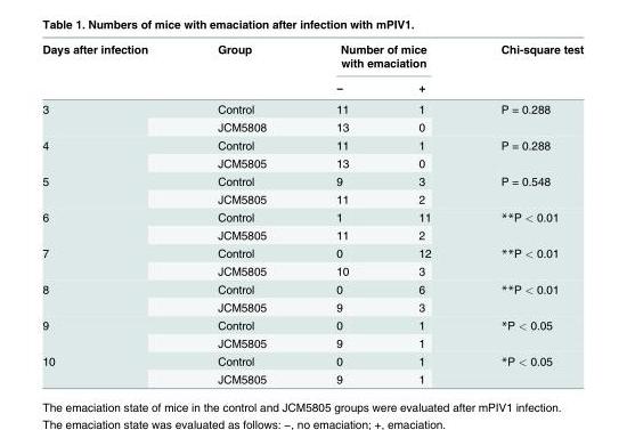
<table><thead><tr><td rowspan="2">Days after infection</td><td rowspan="2">Group</td><td colspan="2">Number of mice with emaciation</td><td rowspan="2">Chi-square test</td></tr><tr><td>−</td><td>+</td></tr></thead><tbody><tr><td rowspan="2">3</td><td>Control</td><td>11</td><td>1</td><td rowspan="2">P = 0.288</td></tr><tr><td>JCM5808</td><td>13</td><td>0</td></tr><tr><td rowspan="2">4</td><td>Control</td><td>11</td><td>1</td><td rowspan="2">P = 0.288</td></tr><tr><td>JCM5805</td><td>13</td><td>0</td></tr><tr><td rowspan="2">5</td><td>Control</td><td>9</td><td>3</td><td rowspan="2">P = 0.548</td></tr><tr><td>JCM5805</td><td>11</td><td>2</td></tr><tr><td rowspan="2">6</td><td>Control</td><td>1</td><td>11</td><td rowspan="2">**P &lt; 0.01</td></tr><tr><td>JCM5805</td><td>11</td><td>2</td></tr><tr><td rowspan="2">7</td><td>Control</td><td>0</td><td>12</td><td rowspan="2">**P &lt; 0.01</td></tr><tr><td>JCM5805</td><td>10</td><td>3</td></tr><tr><td rowspan="2">8</td><td>Control</td><td>0</td><td>6</td><td rowspan="2">**P &lt; 0.01</td></tr><tr><td>JCM5805</td><td>9</td><td>3</td></tr><tr><td rowspan="2">9</td><td>Control</td><td>0</td><td>1</td><td rowspan="2">*P &lt; 0.05</td></tr><tr><td>JCM5805</td><td>9</td><td>1</td></tr><tr><td rowspan="2">10</td><td>Control</td><td>0</td><td>1</td><td rowspan="2">*P &lt; 0.05</td></tr><tr><td>JCM5805</td><td>9</td><td>1</td></tr></tbody></table>